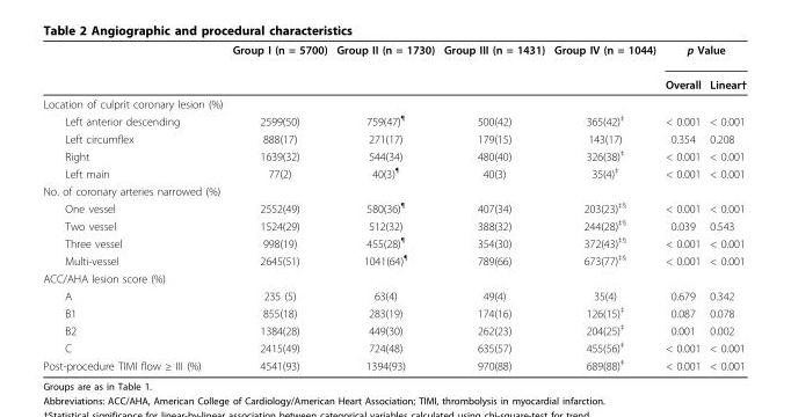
<table><thead><tr><td rowspan="2"></td><td rowspan="2">Group I (n = 5700)</td><td rowspan="2">Group II (n = 1730)</td><td rowspan="2">Group III (n = 1431)</td><td rowspan="2">Group IV (n = 1044)</td><td colspan="2">p Value</td></tr><tr><td>Overall</td><td>Linear†</td></tr></thead><tbody><tr><td colspan="7">Location of culprit coronary lesion (%)</td></tr><tr><td>Left anterior descending</td><td>2599(50)</td><td>759(47)<sup>¶</sup></td><td>500(42)</td><td>365(42)<sup>‡</sup></td><td>&lt; 0.001</td><td>&lt; 0.001</td></tr><tr><td>Left circumflex</td><td>888(17)</td><td>271(17)</td><td>179(15)</td><td>143(17)</td><td>0.354</td><td>0.208</td></tr><tr><td>Right</td><td>1639(32)</td><td>544(34)</td><td>480(40)</td><td>326(38)<sup>‡</sup></td><td>&lt; 0.001</td><td>&lt; 0.001</td></tr><tr><td>Left main</td><td>77(2)</td><td>40(3)<sup>¶</sup></td><td>40(3)</td><td>35(4)<sup>‡</sup></td><td>&lt; 0.001</td><td>&lt; 0.001</td></tr><tr><td colspan="7">No. of coronary arteries narrowed (%)</td></tr><tr><td>One vessel</td><td>2552(49)</td><td>580(36)<sup>¶</sup></td><td>407(34)</td><td>203(23)<sup>‡§</sup></td><td>&lt; 0.001</td><td>&lt; 0.001</td></tr><tr><td>Two vessel</td><td>1524(29)</td><td>512(32)</td><td>388(32)</td><td>244(28)<sup>‡§</sup></td><td>0.039</td><td>0.543</td></tr><tr><td>Three vessel</td><td>998(19)</td><td>455(28)<sup>¶</sup></td><td>354(30)</td><td>372(43)<sup>‡§</sup></td><td>&lt; 0.001</td><td>&lt; 0.001</td></tr><tr><td>Multi-vessel</td><td>2645(51)</td><td>1041(64)<sup>¶</sup></td><td>789(66)</td><td>673(77)<sup>‡§</sup></td><td>&lt; 0.001</td><td>&lt; 0.001</td></tr><tr><td colspan="7">ACC/AHA lesion score (%)</td></tr><tr><td>A</td><td>235 (5)</td><td>63(4)</td><td>49(4)</td><td>35(4)</td><td>0.679</td><td>0.342</td></tr><tr><td>B1</td><td>855(18)</td><td>283(19)</td><td>174(16)</td><td>126(15)<sup>‡</sup></td><td>0.087</td><td>0.078</td></tr><tr><td>B2</td><td>1384(28)</td><td>449(30)</td><td>262(23)</td><td>204(25)<sup>‡</sup></td><td>0.001</td><td>0.002</td></tr><tr><td>C</td><td>2415(49)</td><td>724(48)</td><td>635(57)</td><td>455(56)<sup>‡</sup></td><td>&lt; 0.001</td><td>&lt; 0.001</td></tr><tr><td>Post-procedure TIMI flow ≥ III (%)</td><td>4541(93)</td><td>1394(93)</td><td>970(88)</td><td>689(88)<sup>‡</sup></td><td>&lt; 0.001</td><td>&lt; 0.001</td></tr></tbody></table>